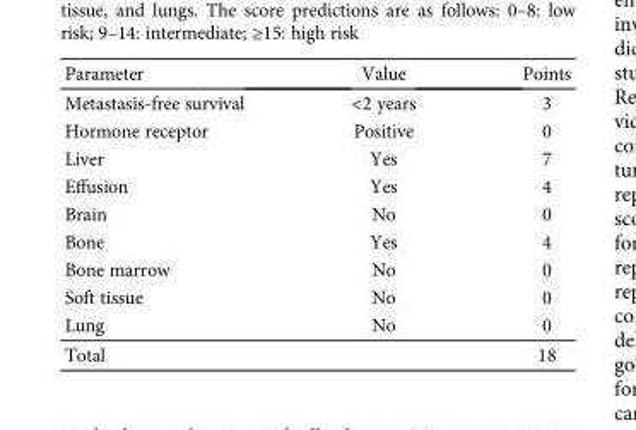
<table><thead><tr><td>Parameter</td><td>Value</td><td>Points</td></tr></thead><tbody><tr><td>Metastasis-free survival</td><td>&lt;2 years</td><td>3</td></tr><tr><td>Hormone receptor</td><td>Positive</td><td>0</td></tr><tr><td>Liver</td><td>Yes</td><td>7</td></tr><tr><td>Effusion</td><td>Yes</td><td>4</td></tr><tr><td>Brain</td><td>No</td><td>0</td></tr><tr><td>Bone</td><td>Yes</td><td>4</td></tr><tr><td>Bone marrow</td><td>No</td><td>0</td></tr><tr><td>Soft tissue</td><td>No</td><td>0</td></tr><tr><td>Lung</td><td>No</td><td>0</td></tr><tr><td>Total</td><td></td><td>18</td></tr></tbody></table>